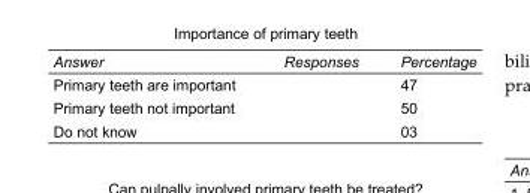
<table><tbody><tr><td>Answer</td><td>Responses</td><td>Percentage</td></tr><tr><td>Primary teeth are important</td><td></td><td>47</td></tr><tr><td>Primary teeth not important</td><td></td><td>50</td></tr><tr><td>Do not know</td><td></td><td>03</td></tr></tbody></table>